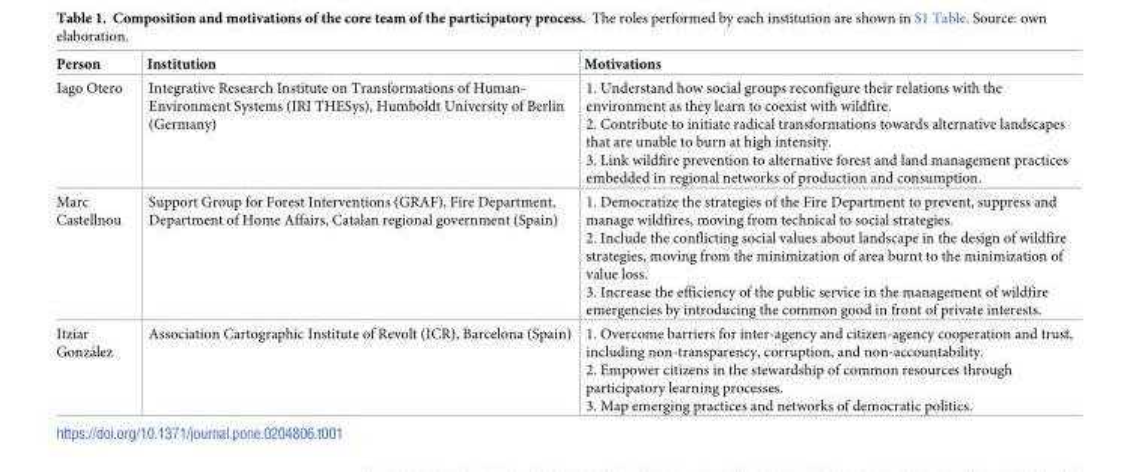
<table><thead><tr><td>Person</td><td>Institution</td><td>Motivations</td></tr></thead><tbody><tr><td>Iago Otero</td><td>Integrative Research Institute on Transformations of Human- Environment Systems (IRI THESys), Humboldt University of Berlin (Germany)</td><td>1. Understand how social groups reconfigure their relations with the environment as they learn to coexist with wildfire. 2. Contribute to initiate radical transformations towards alternative landscapes that are unable to burn at high intensity. 3. Link wildfire prevention to alternative forest and land management practices embedded in regional networks of production and consumption.</td></tr><tr><td>Marc Castellnou</td><td>Support Group for Forest Interventions (GRAF), Fire Department, Department of Home Affairs, Catalan regional government (Spain)</td><td>1. Democratize the strategies of the Fire Department to prevent, suppress and manage wildfires, moving from technical to social strategies. 2. Include the conflicting social values about landscape in the design of wildfire strategies, moving from the minimization of area burnt to the minimization of value loss. 3. Increase the efficiency of the public service in the management of wildfire emergencies by introducing the common good in front of private interests.</td></tr><tr><td>Itziar Gonza´lez</td><td>Association Cartographic Institute of Revolt (ICR), Barcelona (Spain)</td><td>1. Overcome barriers for inter-agency and citizen-agency cooperation and trust, including non-transparency, corruption, and non-accountability. 2. Empower citizens in the stewardship of common resources through participatory learning processes. 3. Map emerging practices and networks of democratic politics.</td></tr></tbody></table>